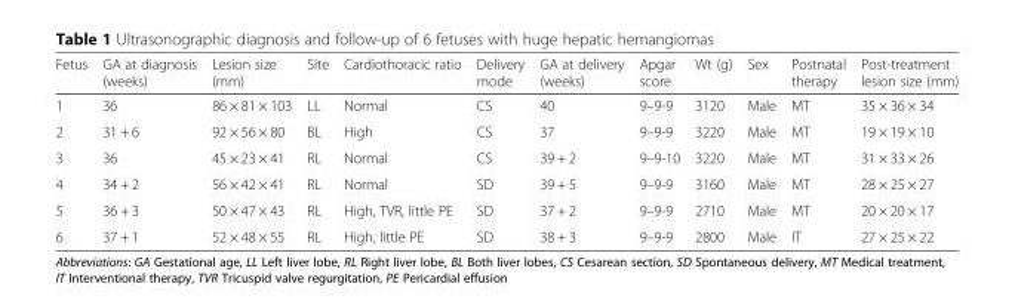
<table><thead><tr><td>Fetus</td><td>GA at diagnosis (weeks)</td><td>Lesion size (mm)</td><td>Site</td><td>Cardiothoracic ratio</td><td>Delivery mode</td><td>GA at delivery (weeks)</td><td>Apgar score</td><td>Wt (g)</td><td>Sex</td><td>Postnatal therapy</td><td>Post-treatment lesion size (mm)</td></tr></thead><tbody><tr><td>1</td><td>36</td><td>86 × 81 × 103</td><td>LL</td><td>Normal</td><td>CS</td><td>40</td><td>9–9-9</td><td>3120</td><td>Male</td><td>MT</td><td>35 × 36 × 34</td></tr><tr><td>2</td><td>31 + 6</td><td>92 × 56 × 80</td><td>BL</td><td>High</td><td>CS</td><td>37</td><td>9–9-9</td><td>3220</td><td>Male</td><td>MT</td><td>19 × 19 × 10</td></tr><tr><td>3</td><td>36</td><td>45 × 23 × 41</td><td>RL</td><td>Normal</td><td>CS</td><td>39 + 2</td><td>9–9-10</td><td>3220</td><td>Male</td><td>MT</td><td>31 × 33 × 26</td></tr><tr><td>4</td><td>34 + 2</td><td>56 × 42 × 41</td><td>RL</td><td>Normal</td><td>SD</td><td>39 + 5</td><td>9–9-9</td><td>3160</td><td>Male</td><td>MT</td><td>28 × 25 × 27</td></tr><tr><td>5</td><td>36 + 3</td><td>50 × 47 × 43</td><td>RL</td><td>High, TVR, little PE</td><td>SD</td><td>37 + 2</td><td>9–9-9</td><td>2710</td><td>Male</td><td>MT</td><td>20 × 20 × 17</td></tr><tr><td>6</td><td>37 + 1</td><td>52 × 48 × 55</td><td>RL</td><td>High, little PE</td><td>SD</td><td>38 + 3</td><td>9–9-9</td><td>2800</td><td>Male</td><td>IT</td><td>27 × 25 × 22</td></tr></tbody></table>